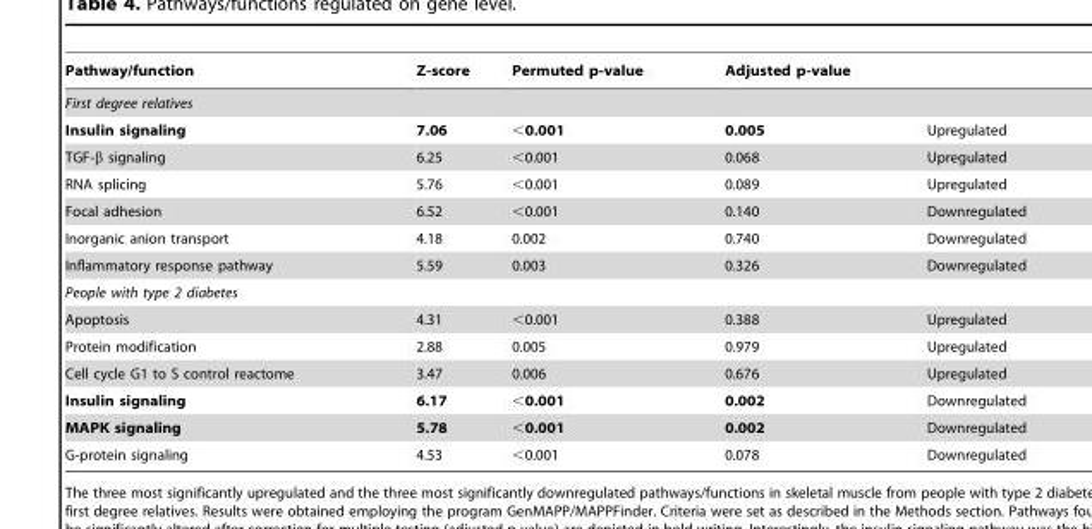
<table><thead><tr><td>Pathway/function</td><td>Z-score</td><td>Permuted p-value</td><td>Adjusted p-value</td><td></td></tr></thead><tbody><tr><td colspan="5">First degree relatives</td></tr><tr><td>Insulin signaling</td><td>7.06</td><td>&lt;0.001</td><td>0.005</td><td>Upregulated</td></tr><tr><td>TGF-β signaling</td><td>6.25</td><td>&lt;0.001</td><td>0.068</td><td>Upregulated</td></tr><tr><td>RNA splicing</td><td>5.76</td><td>&lt;0.001</td><td>0.089</td><td>Upregulated</td></tr><tr><td>Focal adhesion</td><td>6.52</td><td>&lt;0.001</td><td>0.140</td><td>Downregulated</td></tr><tr><td>Inorganic anion transport</td><td>4.18</td><td>0.002</td><td>0.740</td><td>Downregulated</td></tr><tr><td>Inflammatory response pathway</td><td>5.59</td><td>0.003</td><td>0.326</td><td>Downregulated</td></tr><tr><td colspan="5">People with type 2 diabetes</td></tr><tr><td>Apoptosis</td><td>4.31</td><td>&lt;0.001</td><td>0.388</td><td>Upregulated</td></tr><tr><td>Protein modification</td><td>2.88</td><td>0.005</td><td>0.979</td><td>Upregulated</td></tr><tr><td>Cell cycle G1 to S control reactome</td><td>3.47</td><td>0.006</td><td>0.676</td><td>Upregulated</td></tr><tr><td>Insulin signaling</td><td>6.17</td><td>&lt;0.001</td><td>0.002</td><td>Downregulated</td></tr><tr><td>MAPK signaling</td><td>5.78</td><td>&lt;0.001</td><td>0.002</td><td>Downregulated</td></tr><tr><td>G-protein signaling</td><td>4.53</td><td>&lt;0.001</td><td>0.078</td><td>Downregulated</td></tr></tbody></table>